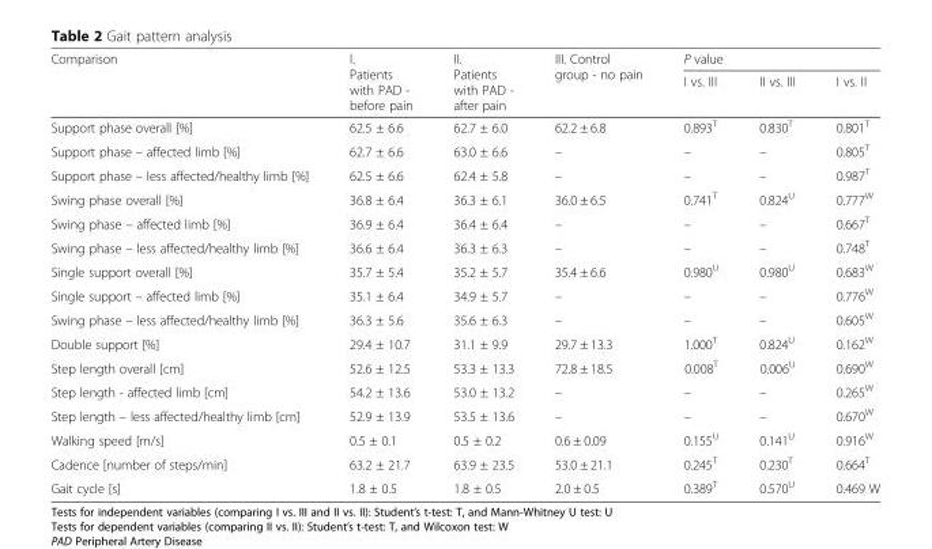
<table><thead><tr><td rowspan="2">Comparison</td><td rowspan="2">I. Patients with PAD - before pain</td><td rowspan="2">II. Patients with PAD - after pain</td><td rowspan="2">III. Control group - no pain</td><td colspan="3">P value</td></tr><tr><td>I vs. III</td><td>II vs. III</td><td>I vs. II</td></tr></thead><tbody><tr><td>Support phase overall [%]</td><td>62.5 ± 6.6</td><td>62.7 ± 6.0</td><td>62.2 ± 6.8</td><td>0.893<sup>T</sup></td><td>0.830<sup>T</sup></td><td>0.801<sup>T</sup></td></tr><tr><td>Support phase – affected limb [%]</td><td>62.7 ± 6.6</td><td>63.0 ± 6.6</td><td>–</td><td>–</td><td>–</td><td>0.805<sup>T</sup></td></tr><tr><td>Support phase – less affected/healthy limb [%]</td><td>62.5 ± 6.6</td><td>62.4 ± 5.8</td><td>–</td><td>–</td><td>–</td><td>0.987<sup>T</sup></td></tr><tr><td>Swing phase overall [%]</td><td>36.8 ± 6.4</td><td>36.3 ± 6.1</td><td>36.0 ± 6.5</td><td>0.741<sup>T</sup></td><td>0.824<sup>U</sup></td><td>0.777<sup>W</sup></td></tr><tr><td>Swing phase – affected limb [%]</td><td>36.9 ± 6.4</td><td>36.4 ± 6.4</td><td>–</td><td>–</td><td>–</td><td>0.667<sup>T</sup></td></tr><tr><td>Swing phase – less affected/healthy limb [%]</td><td>36.6 ± 6.4</td><td>36.3 ± 6.3</td><td>–</td><td>–</td><td>–</td><td>0.748<sup>T</sup></td></tr><tr><td>Single support overall [%]</td><td>35.7 ± 5.4</td><td>35.2 ± 5.7</td><td>35.4 ± 6.6</td><td>0.980<sup>U</sup></td><td>0.980<sup>U</sup></td><td>0.683<sup>W</sup></td></tr><tr><td>Single support – affected limb [%]</td><td>35.1 ± 6.4</td><td>34.9 ± 5.7</td><td>–</td><td>–</td><td>–</td><td>0.776<sup>W</sup></td></tr><tr><td>Swing phase – less affected/healthy limb [%]</td><td>36.3 ± 5.6</td><td>35.6 ± 6.3</td><td>–</td><td>–</td><td>–</td><td>0.605<sup>W</sup></td></tr><tr><td>Double support [%]</td><td>29.4 ± 10.7</td><td>31.1 ± 9.9</td><td>29.7 ± 13.3</td><td>1.000<sup>T</sup></td><td>0.824<sup>U</sup></td><td>0.162<sup>W</sup></td></tr><tr><td>Step length overall [cm]</td><td>52.6 ± 12.5</td><td>53.3 ± 13.3</td><td>72.8 ± 18.5</td><td>0.008<sup>T</sup></td><td>0.006<sup>U</sup></td><td>0.690<sup>W</sup></td></tr><tr><td>Step length - affected limb [cm]</td><td>54.2 ± 13.6</td><td>53.0 ± 13.2</td><td>–</td><td>–</td><td>–</td><td>0.265<sup>W</sup></td></tr><tr><td>Step length – less affected/healthy limb [cm]</td><td>52.9 ± 13.9</td><td>53.5 ± 13.6</td><td>–</td><td>–</td><td>–</td><td>0.670<sup>W</sup></td></tr><tr><td>Walking speed [m/s]</td><td>0.5 ± 0.1</td><td>0.5 ± 0.2</td><td>0.6 ± 0.09</td><td>0.155<sup>U</sup></td><td>0.141<sup>U</sup></td><td>0.916<sup>W</sup></td></tr><tr><td>Cadence [number of steps/min]</td><td>63.2 ± 21.7</td><td>63.9 ± 23.5</td><td>53.0 ± 21.1</td><td>0.245<sup>T</sup></td><td>0.230<sup>T</sup></td><td>0.664<sup>T</sup></td></tr><tr><td>Gait cycle [s]</td><td>1.8 ± 0.5</td><td>1.8 ± 0.5</td><td>2.0 ± 0.5</td><td>0.389<sup>T</sup></td><td>0.570<sup>U</sup></td><td>0.469 W</td></tr></tbody></table>